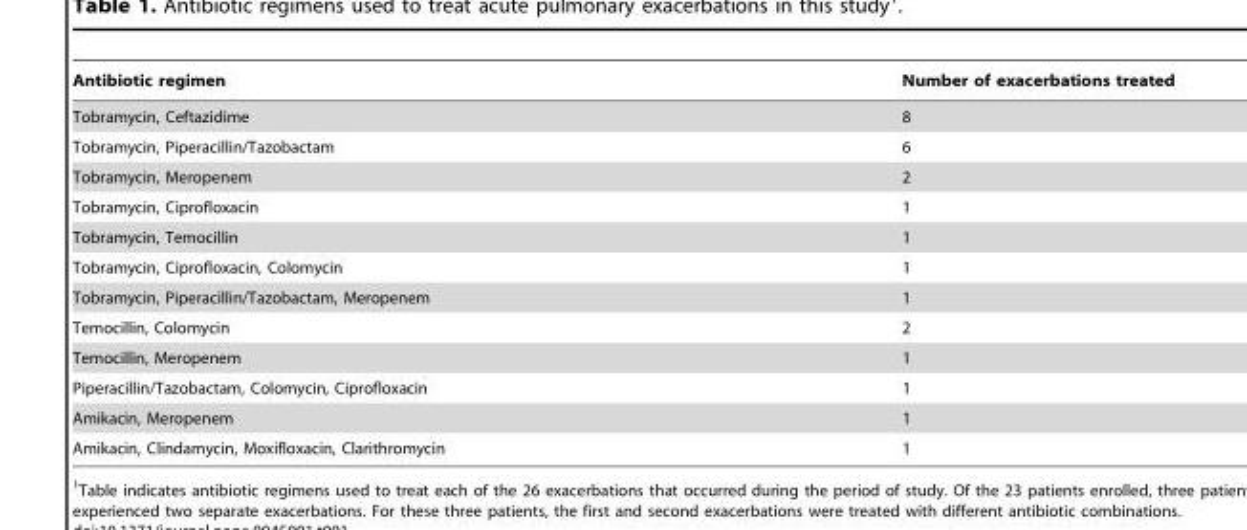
<table><thead><tr><td>Antibiotic regimen</td><td>Number of exacerbations treated</td></tr></thead><tbody><tr><td>Tobramycin, Ceftazidime</td><td>8</td></tr><tr><td>Tobramycin, Piperacillin/Tazobactam</td><td>6</td></tr><tr><td>Tobramycin, Meropenem</td><td>2</td></tr><tr><td>Tobramycin, Ciprofloxacin</td><td>1</td></tr><tr><td>Tobramycin, Temocillin</td><td>1</td></tr><tr><td>Tobramycin, Ciprofloxacin, Colomycin</td><td>1</td></tr><tr><td>Tobramycin, Piperacillin/Tazobactam, Meropenem</td><td>1</td></tr><tr><td>Temocillin, Colomycin</td><td>2</td></tr><tr><td>Temocillin, Meropenem</td><td>1</td></tr><tr><td>Piperacillin/Tazobactam, Colomycin, Ciprofloxacin</td><td>1</td></tr><tr><td>Amikacin, Meropenem</td><td>1</td></tr><tr><td>Amikacin, Clindamycin, Moxifloxacin, Clarithromycin</td><td>1</td></tr></tbody></table>